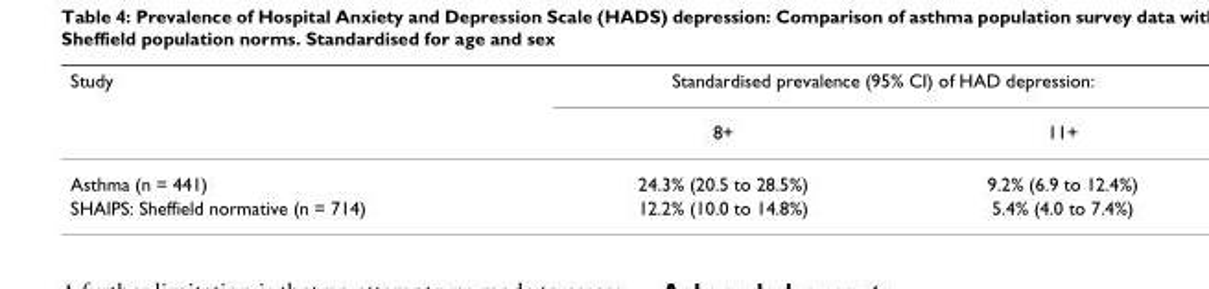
<table><thead><tr><td rowspan="2">Study</td><td colspan="2">Standardised prevalence (95% CI) of HAD depression:</td></tr><tr><td>8+</td><td>11+</td></tr></thead><tbody><tr><td>Asthma (n = 441)</td><td>24.3% (20.5 to 28.5%)</td><td>9.2% (6.9 to 12.4%)</td></tr><tr><td>SHAIPS: Sheffield normative (n = 714)</td><td>12.2% (10.0 to 14.8%)</td><td>5.4% (4.0 to 7.4%)</td></tr></tbody></table>